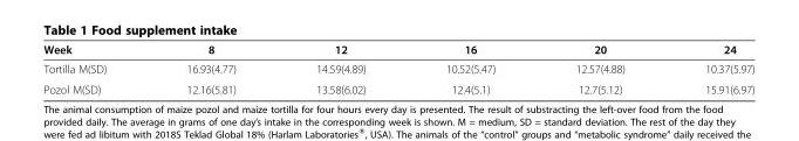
<table><thead><tr><td>Week</td><td>8</td><td>12</td><td>16</td><td>20</td><td>24</td></tr></thead><tbody><tr><td>Tortilla M(SD)</td><td>16.93(4.77)</td><td>14.59(4.89)</td><td>10.52(5.47)</td><td>12.57(4.88)</td><td>10.37(5.97)</td></tr><tr><td>Pozol M(SD)</td><td>12.16(5.81)</td><td>13.58(6.02)</td><td>12.4(5.1)</td><td>12.7(5.12)</td><td>15.91(6.97)</td></tr></tbody></table>